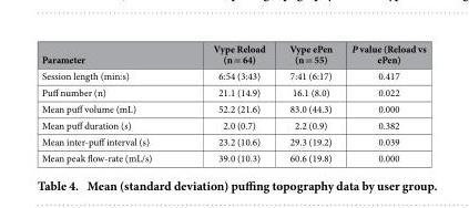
<table><thead><tr><td>Parameter</td><td>Vype Reload (n = 64)</td><td>Vype ePen (n = 55)</td><td>P value (Reload vs ePen)</td></tr></thead><tbody><tr><td>Session length (min:s)</td><td>6:54 (3:43)</td><td>7:41 (6:17)</td><td>0.417</td></tr><tr><td>Puff number (n)</td><td>21.1 (14.9)</td><td>16.1 (8.0)</td><td>0.022</td></tr><tr><td>Mean puff volume (mL)</td><td>52.2 (21.6)</td><td>83.0 (44.3)</td><td>0.000</td></tr><tr><td>Mean puff duration (s)</td><td>2.0 (0.7)</td><td>2.2 (0.9)</td><td>0.382</td></tr><tr><td>Mean inter-puff interval (s)</td><td>23.2 (10.6)</td><td>29.3 (19.2)</td><td>0.039</td></tr><tr><td>Mean peak flow-rate (mL/s)</td><td>39.0 (10.3)</td><td>60.6 (19.8)</td><td>0.000</td></tr></tbody></table>